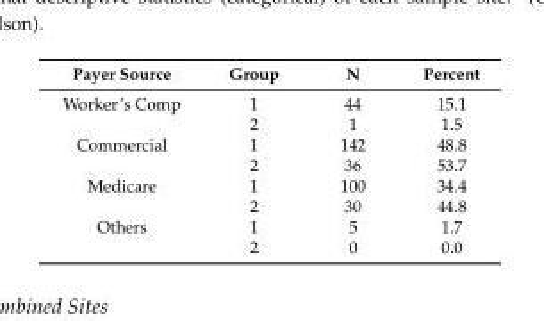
<table><thead><tr><td>Payer Source</td><td>Group</td><td>N</td><td>Percent</td></tr></thead><tbody><tr><td rowspan="2">Worker’s Comp</td><td>1</td><td>44</td><td>15.1</td></tr><tr><td>2</td><td>1</td><td>1.5</td></tr><tr><td rowspan="2">Commercial</td><td>1</td><td>142</td><td>48.8</td></tr><tr><td>2</td><td>36</td><td>53.7</td></tr><tr><td rowspan="2">Medicare</td><td>1</td><td>100</td><td>34.4</td></tr><tr><td>2</td><td>30</td><td>44.8</td></tr><tr><td rowspan="2">Others</td><td>1</td><td>5</td><td>1.7</td></tr><tr><td>2</td><td>0</td><td>0.0</td></tr></tbody></table>